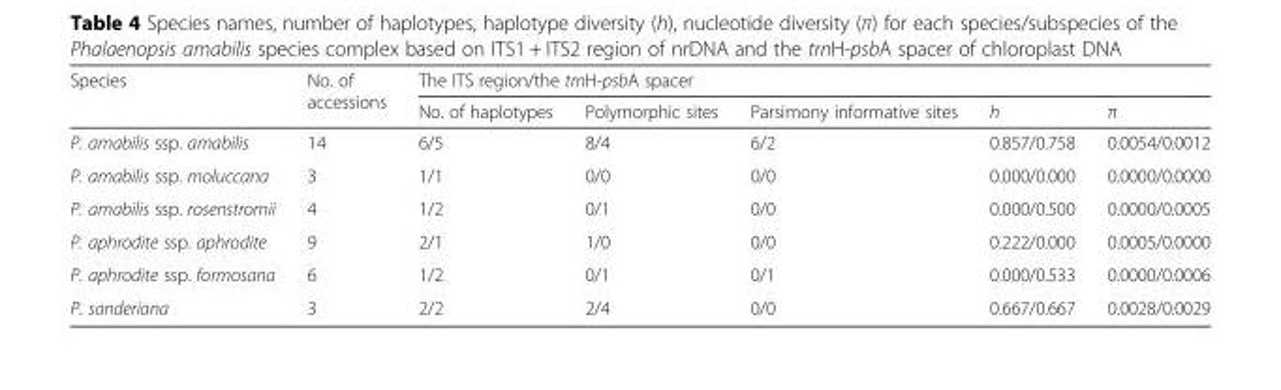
<table><thead><tr><td rowspan="2">Species</td><td rowspan="2">No. of accessions</td><td colspan="5">The ITS region/the trnH-psbA spacer</td></tr><tr><td>No. of haplotypes</td><td>Polymorphic sites</td><td>Parsimony informative sites</td><td>h</td><td>π</td></tr></thead><tbody><tr><td>P. amabilis ssp. amabilis</td><td>14</td><td>6/5</td><td>8/4</td><td>6/2</td><td>0.857/0.758</td><td>0.0054/0.0012</td></tr><tr><td>P. amabilis ssp. moluccana</td><td>3</td><td>1/1</td><td>0/0</td><td>0/0</td><td>0.000/0.000</td><td>0.0000/0.0000</td></tr><tr><td>P. amabilis ssp. rosenstromii</td><td>4</td><td>1/2</td><td>0/1</td><td>0/0</td><td>0.000/0.500</td><td>0.0000/0.0005</td></tr><tr><td>P. aphrodite ssp. aphrodite</td><td>9</td><td>2/1</td><td>1/0</td><td>0/0</td><td>0.222/0.000</td><td>0.0005/0.0000</td></tr><tr><td>P. aphrodite ssp. formosana</td><td>6</td><td>1/2</td><td>0/1</td><td>0/1</td><td>0.000/0.533</td><td>0.0000/0.0006</td></tr><tr><td>P. sanderiana</td><td>3</td><td>2/2</td><td>2/4</td><td>0/0</td><td>0.667/0.667</td><td>0.0028/0.0029</td></tr></tbody></table>